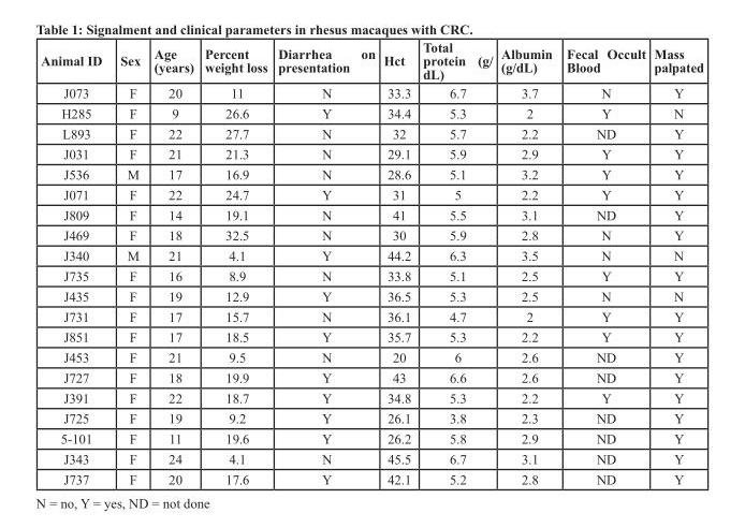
<table><thead><tr><td>Animal ID</td><td>Sex</td><td>Age (years)</td><td>Percent weight loss</td><td>Diarrhea on presentation</td><td>Hct</td><td>Total protein (g/ dL)</td><td>Albumin (g/dL)</td><td>Fecal Occult Blood</td><td>Mass palpated</td></tr></thead><tbody><tr><td>J073</td><td>F</td><td>20</td><td>11</td><td>N</td><td>33.3</td><td>6.7</td><td>3.7</td><td>N</td><td>Y</td></tr><tr><td>H285</td><td>F</td><td>9</td><td>26.6</td><td>Y</td><td>34.4</td><td>5.3</td><td>2</td><td>Y</td><td>N</td></tr><tr><td>L893</td><td>F</td><td>22</td><td>27.7</td><td>N</td><td>32</td><td>5.7</td><td>2.2</td><td>ND</td><td>Y</td></tr><tr><td>J031</td><td>F</td><td>21</td><td>21.3</td><td>N</td><td>29.1</td><td>5.9</td><td>2.9</td><td>Y</td><td>Y</td></tr><tr><td>J536</td><td>M</td><td>17</td><td>16.9</td><td>N</td><td>28.6</td><td>5.1</td><td>3.2</td><td>Y</td><td>Y</td></tr><tr><td>J071</td><td>F</td><td>22</td><td>24.7</td><td>Y</td><td>31</td><td>5</td><td>2.2</td><td>Y</td><td>Y</td></tr><tr><td>J809</td><td>F</td><td>14</td><td>19.1</td><td>N</td><td>41</td><td>5.5</td><td>3.1</td><td>ND</td><td>Y</td></tr><tr><td>J469</td><td>F</td><td>18</td><td>32.5</td><td>N</td><td>30</td><td>5.9</td><td>2.8</td><td>N</td><td>Y</td></tr><tr><td>J340</td><td>M</td><td>21</td><td>4.1</td><td>Y</td><td>44.2</td><td>6.3</td><td>3.5</td><td>N</td><td>N</td></tr><tr><td>J735</td><td>F</td><td>16</td><td>8.9</td><td>N</td><td>33.8</td><td>5.1</td><td>2.5</td><td>Y</td><td>Y</td></tr><tr><td>J435</td><td>F</td><td>19</td><td>12.9</td><td>Y</td><td>36.5</td><td>5.3</td><td>2.5</td><td>N</td><td>N</td></tr><tr><td>J731</td><td>F</td><td>17</td><td>15.7</td><td>N</td><td>36.1</td><td>4.7</td><td>2</td><td>Y</td><td>Y</td></tr><tr><td>J851</td><td>F</td><td>17</td><td>18.5</td><td>Y</td><td>35.7</td><td>5.3</td><td>2.2</td><td>Y</td><td>Y</td></tr><tr><td>J453</td><td>F</td><td>21</td><td>9.5</td><td>N</td><td>20</td><td>6</td><td>2.6</td><td>ND</td><td>Y</td></tr><tr><td>J727</td><td>F</td><td>18</td><td>19.9</td><td>Y</td><td>43</td><td>6.6</td><td>2.6</td><td>ND</td><td>Y</td></tr><tr><td>J391</td><td>F</td><td>22</td><td>18.7</td><td>Y</td><td>34.8</td><td>5.3</td><td>2.2</td><td>Y</td><td>Y</td></tr><tr><td>J725</td><td>F</td><td>19</td><td>9.2</td><td>Y</td><td>26.1</td><td>3.8</td><td>2.3</td><td>ND</td><td>Y</td></tr><tr><td>5-101</td><td>F</td><td>11</td><td>19.6</td><td>Y</td><td>26.2</td><td>5.8</td><td>2.9</td><td>ND</td><td>Y</td></tr><tr><td>J343</td><td>F</td><td>24</td><td>4.1</td><td>N</td><td>45.5</td><td>6.7</td><td>3.1</td><td>ND</td><td>Y</td></tr><tr><td>J737</td><td>F</td><td>20</td><td>17.6</td><td>Y</td><td>42.1</td><td>5.2</td><td>2.8</td><td>ND</td><td>Y</td></tr></tbody></table>